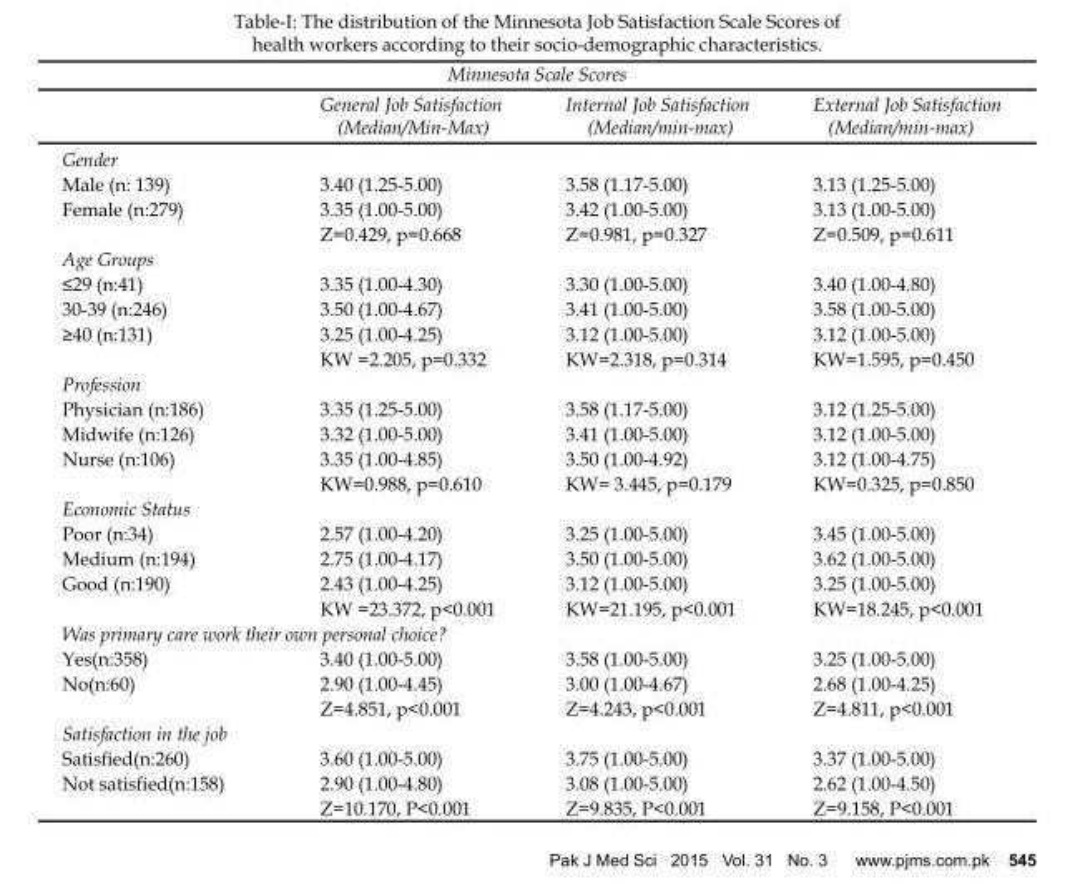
<table><thead><tr><td rowspan="2"></td><td colspan="2">Minnesota Scale Scores</td><td rowspan="2">External Job Satisfaction (Median/min-max)</td></tr><tr><td>General Job Satisfaction (Median/Min-Max)</td><td>Internal Job Satisfaction (Median/min-max)</td></tr></thead><tbody><tr><td colspan="4">Gender</td></tr><tr><td>Male (n: 139)</td><td>3.40 (1.25-5.00)</td><td>3.58 (1.17-5.00)</td><td>3.13 (1.25-5.00)</td></tr><tr><td rowspan="2">Female (n:279)</td><td>3.35 (1.00-5.00)</td><td>3.42 (1.00-5.00)</td><td>3.13 (1.00-5.00)</td></tr><tr><td>Z=0.429, p=0.668</td><td>Z=0.981, p=0.327</td><td>Z=0.509, p=0.611</td></tr><tr><td colspan="4">Age Groups</td></tr><tr><td>≤29 (n:41)</td><td>3.35 (1.00-4.30)</td><td>3.30 (1.00-5.00)</td><td>3.40 (1.00-4.80)</td></tr><tr><td>30-39 (n:246)</td><td>3.50 (1.00-4.67)</td><td>3.41 (1.00-5.00)</td><td>3.58 (1.00-5.00)</td></tr><tr><td rowspan="2">≥40 (n:131)</td><td>3.25 (1.00-4.25)</td><td>3.12 (1.00-5.00)</td><td>3.12 (1.00-5.00)</td></tr><tr><td>KW =2.205, p=0.332</td><td>KW=2.318, p=0.314</td><td>KW=1.595, p=0.450</td></tr><tr><td colspan="4">Profession</td></tr><tr><td>Physician (n:186)</td><td>3.35 (1.25-5.00)</td><td>3.58 (1.17-5.00)</td><td>3.12 (1.25-5.00)</td></tr><tr><td>Midwife (n:126)</td><td>3.32 (1.00-5.00)</td><td>3.41 (1.00-5.00)</td><td>3.12 (1.00-5.00)</td></tr><tr><td rowspan="2">Nurse (n:106)</td><td>3.35 (1.00-4.85)</td><td>3.50 (1.00-4.92)</td><td>3.12 (1.00-4.75)</td></tr><tr><td>KW=0.988, p=0.610</td><td>KW= 3.445, p=0.179</td><td>KW=0.325, p=0.850</td></tr><tr><td colspan="4">Economic Status</td></tr><tr><td>Poor (n:34)</td><td>2.57 (1.00-4.20)</td><td>3.25 (1.00-5.00)</td><td>3.45 (1.00-5.00)</td></tr><tr><td>Medium (n:194)</td><td>2.75 (1.00-4.17)</td><td>3.50 (1.00-5.00)</td><td>3.62 (1.00-5.00)</td></tr><tr><td rowspan="2">Good (n:190)</td><td>2.43 (1.00-4.25)</td><td>3.12 (1.00-5.00)</td><td>3.25 (1.00-5.00)</td></tr><tr><td>KW =23.372, p&lt;0.001</td><td>KW=21.195, p&lt;0.001</td><td>KW=18.245, p&lt;0.001</td></tr><tr><td colspan="4">Was primary care work their own personal choice?</td></tr><tr><td>Yes(n:358)</td><td>3.40 (1.00-5.00)</td><td>3.58 (1.00-5.00)</td><td>3.25 (1.00-5.00)</td></tr><tr><td rowspan="2">No(n:60)</td><td>2.90 (1.00-4.45)</td><td>3.00 (1.00-4.67)</td><td>2.68 (1.00-4.25)</td></tr><tr><td>Z=4.851, p&lt;0.001</td><td>Z=4.243, p&lt;0.001</td><td>Z=4.811, p&lt;0.001</td></tr><tr><td colspan="4">Satisfaction in the job</td></tr><tr><td>Satisfied(n:260)</td><td>3.60 (1.00-5.00)</td><td>3.75 (1.00-5.00)</td><td>3.37 (1.00-5.00)</td></tr><tr><td rowspan="2">Not satisfied(n:158)</td><td>2.90 (1.00-4.80)</td><td>3.08 (1.00-5.00)</td><td>2.62 (1.00-4.50)</td></tr><tr><td>Z=10.170, P&lt;0.001</td><td>Z=9.835, P&lt;0.001</td><td>Z=9.158, P&lt;0.001</td></tr></tbody></table>